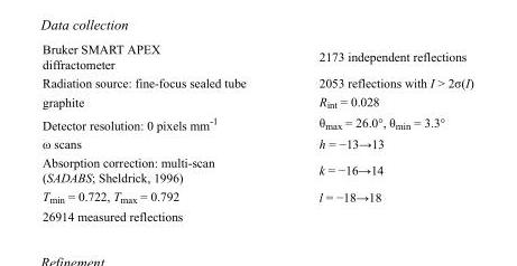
<table><tbody><tr><td>Bruker SMART APEX diffractometer</td><td>2173 independent reflections</td></tr><tr><td>Radiation source: fine-focus sealed tube</td><td>2053 reflections with I &gt; 2σ(I)</td></tr><tr><td>graphite</td><td>R<sub>int</sub> = 0.028</td></tr><tr><td>Detector resolution: 0 pixels mm<sup>-1</sup></td><td>θ<sub>max</sub> = 26.0°, θ<sub>min</sub> = 3.3°</td></tr><tr><td>ω scans</td><td>h = −13→13</td></tr><tr><td>Absorption correction: multi-scan (SADABS; Sheldrick, 1996)</td><td>k = −16→14</td></tr><tr><td>T<sub>min</sub> = 0.722, T<sub>max</sub> = 0.792</td><td>l = −18→18</td></tr><tr><td>26914 measured reflections</td><td></td></tr></tbody></table>